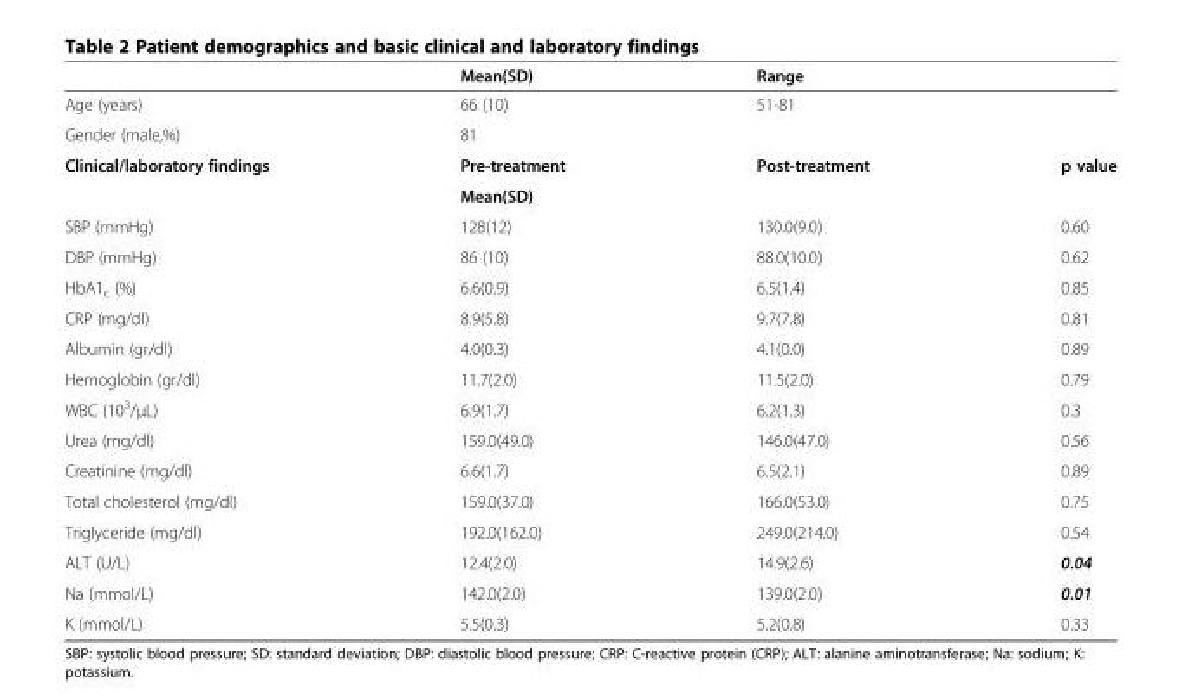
<table><thead><tr><td></td><td>Mean(SD)</td><td>Range</td><td></td></tr></thead><tbody><tr><td>Age (years)</td><td>66 (10)</td><td>51-81</td><td></td></tr><tr><td>Gender (male,%)</td><td>81</td><td></td><td></td></tr><tr><td rowspan="2">Clinical/laboratory findings</td><td>Pre-treatment</td><td>Post-treatment</td><td rowspan="2">p value</td></tr><tr><td colspan="2">Mean(SD)</td></tr><tr><td>SBP (mmHg)</td><td>128(12)</td><td>130.0(9.0)</td><td>0.60</td></tr><tr><td>DBP (mmHg)</td><td>86 (10)</td><td>88.0(10.0)</td><td>0.62</td></tr><tr><td>HbA1<sub>c</sub> (%)</td><td>6.6(0.9)</td><td>6.5(1.4)</td><td>0.85</td></tr><tr><td>CRP (mg/dl)</td><td>8.9(5.8)</td><td>9.7(7.8)</td><td>0.81</td></tr><tr><td>Albumin (gr/dl)</td><td>4.0(0.3)</td><td>4.1(0.0)</td><td>0.89</td></tr><tr><td>Hemoglobin (gr/dl)</td><td>11.7(2.0)</td><td>11.5(2.0)</td><td>0.79</td></tr><tr><td>WBC (10<sup>3</sup>/μL)</td><td>6.9(1.7)</td><td>6.2(1.3)</td><td>0.3</td></tr><tr><td>Urea (mg/dl)</td><td>159.0(49.0)</td><td>146.0(47.0)</td><td>0.56</td></tr><tr><td>Creatinine (mg/dl)</td><td>6.6(1.7)</td><td>6.5(2.1)</td><td>0.89</td></tr><tr><td>Total cholesterol (mg/dl)</td><td>159.0(37.0)</td><td>166.0(53.0)</td><td>0.75</td></tr><tr><td>Triglyceride (mg/dl)</td><td>192.0(162.0)</td><td>249.0(214.0)</td><td>0.54</td></tr><tr><td>ALT (U/L)</td><td>12.4(2.0)</td><td>14.9(2.6)</td><td>0.04</td></tr><tr><td>Na (mmol/L)</td><td>142.0(2.0)</td><td>139.0(2.0)</td><td>0.01</td></tr><tr><td>K (mmol/L)</td><td>5.5(0.3)</td><td>5.2(0.8)</td><td>0.33</td></tr></tbody></table>